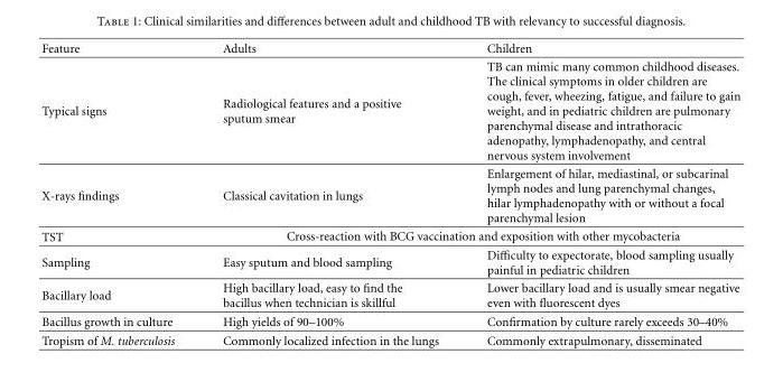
<table><thead><tr><td>Feature</td><td>Adults</td><td>Children</td></tr></thead><tbody><tr><td>Typical signs</td><td>Radiological features and a positive sputum smear</td><td>TB can mimic many common childhood diseases. The clinical symptoms in older children are cough, fever, wheezing, fatigue, and failure to gain weight, and in pediatric children are pulmonary parenchymal disease and intrathoracic adenopathy, lymphadenopathy, and central nervous system involvement</td></tr><tr><td>X-rays findings</td><td>Classical cavitation in lungs</td><td>Enlargement of hilar, mediastinal, or subcarinal lymph nodes and lung parenchymal changes, hilar lymphadenopathy with or without a focal parenchymal lesion</td></tr><tr><td>TST</td><td colspan="2">Cross-reaction with BCG vaccination and exposition with other mycobacteria</td></tr><tr><td>Sampling</td><td>Easy sputum and blood sampling</td><td>Difficulty to expectorate, blood sampling usually painful in pediatric children</td></tr><tr><td>Bacillary load</td><td>High bacillary load, easy to find the bacillus when technician is skillful</td><td>Lower bacillary load and is usually smear negative even with fluorescent dyes</td></tr><tr><td>Bacillus growth in culture</td><td>High yields of 90–100%</td><td>Confirmation by culture rarely exceeds 30–40%</td></tr><tr><td>Tropism of M. tuberculosis</td><td>Commonly localized infection in the lungs</td><td>Commonly extrapulmonary, disseminated</td></tr></tbody></table>